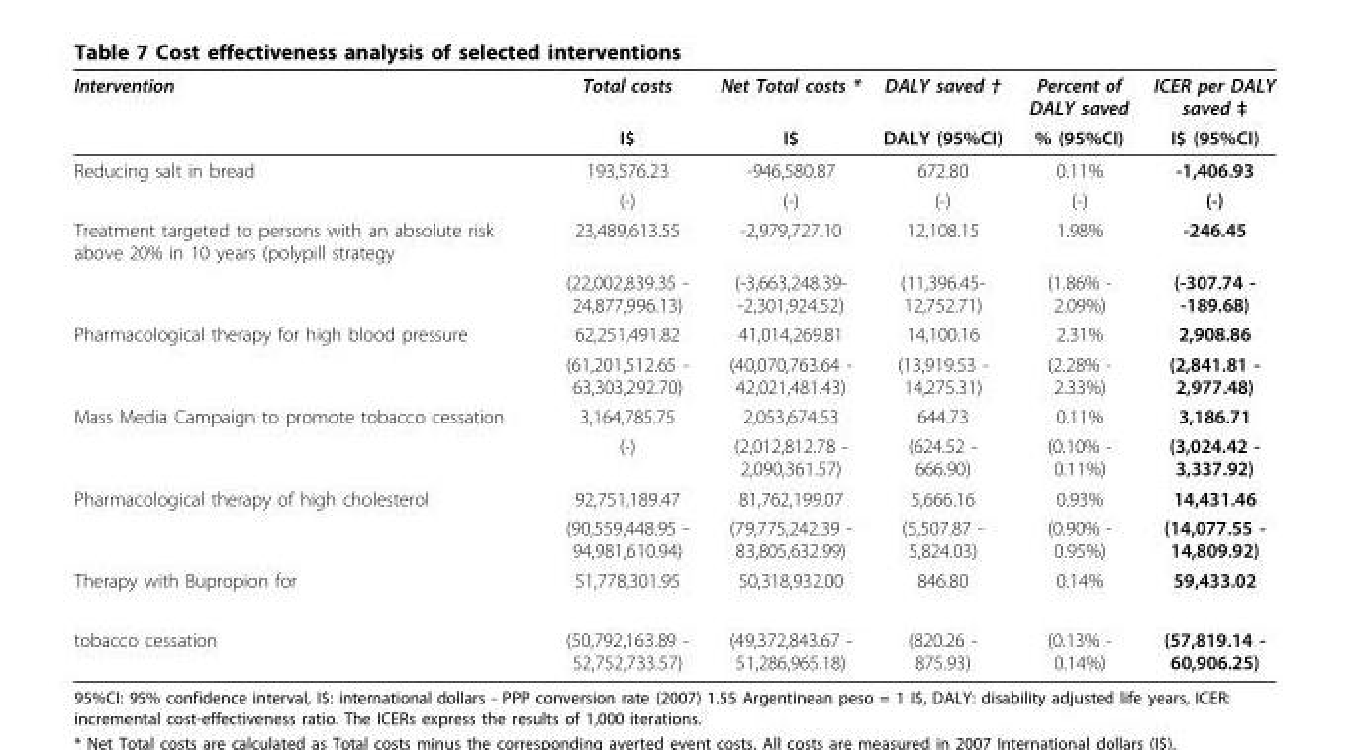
<table><thead><tr><td rowspan="2">Intervention</td><td rowspan="2">Total costs I$</td><td rowspan="2">Net Total costs * I$</td><td rowspan="2">DALY saved † DALY (95%CI)</td><td rowspan="2">Percent of DALY saved % (95%CI)</td><td rowspan="2">ICER per DALY saved ‡ I$ (95%CI)</td></tr><tr></tr></thead><tbody><tr><td rowspan="2">Reducing salt in bread</td><td>193,576.23</td><td>-946,580.87</td><td>672.80</td><td>0.11%</td><td>-1,406.93</td></tr><tr><td>(-)</td><td>(-)</td><td>(-)</td><td>(-)</td><td>(-)</td></tr><tr><td rowspan="2">Treatment targeted to persons with an absolute risk above 20% in 10 years (polypill strategy</td><td>23,489,613.55</td><td>-2,979,727.10</td><td>12,108.15</td><td>1.98%</td><td>-246.45</td></tr><tr><td>(22,002,839.35 - 24,877,996.13)</td><td>(-3,663,248.39- -2,301,924.52)</td><td>(11,396.45- 12,752.71)</td><td>(1.86% - 2.09%)</td><td>(-307.74 - -189.68)</td></tr><tr><td rowspan="2">Pharmacological therapy for high blood pressure</td><td>62,251,491.82</td><td>41,014,269.81</td><td>14,100.16</td><td>2.31%</td><td>2,908.86</td></tr><tr><td>(61,201,512.65 - 63,303,292.70)</td><td>(40,070,763.64 - 42,021,481.43)</td><td>(13,919.53 - 14,275.31)</td><td>(2.28% - 2.33%)</td><td>(2,841.81 - 2,977.48)</td></tr><tr><td rowspan="2">Mass Media Campaign to promote tobacco cessation</td><td>3,164,785.75</td><td>2,053,674.53</td><td>644.73</td><td>0.11%</td><td>3,186.71</td></tr><tr><td>(-)</td><td>(2,012,812.78 - 2,090,361.57)</td><td>(624.52 - 666.90)</td><td>(0.10% - 0.11%)</td><td>(3,024.42 - 3,337.92)</td></tr><tr><td rowspan="2">Pharmacological therapy of high cholesterol</td><td>92,751,189.47</td><td>81,762,199.07</td><td>5,666.16</td><td>0.93%</td><td>14,431.46</td></tr><tr><td>(90,559,448.95 - 94,981,610.94)</td><td>(79,775,242.39 - 83,805,632.99)</td><td>(5,507.87 - 5,824.03)</td><td>(0.90% - 0.95%)</td><td>(14,077.55 - 14,809.92)</td></tr><tr><td>Therapy with Bupropion for</td><td>51,778,301.95</td><td>50,318,932.00</td><td>846.80</td><td>0.14%</td><td>59,433.02</td></tr><tr><td>tobacco cessation</td><td>(50,792,163.89 - 52,752,733.57)</td><td>(49,372,843.67 - 51,286,965.18)</td><td>(820.26 - 875.93)</td><td>(0.13% - 0.14%)</td><td>(57,819.14 - 60,906.25)</td></tr></tbody></table>